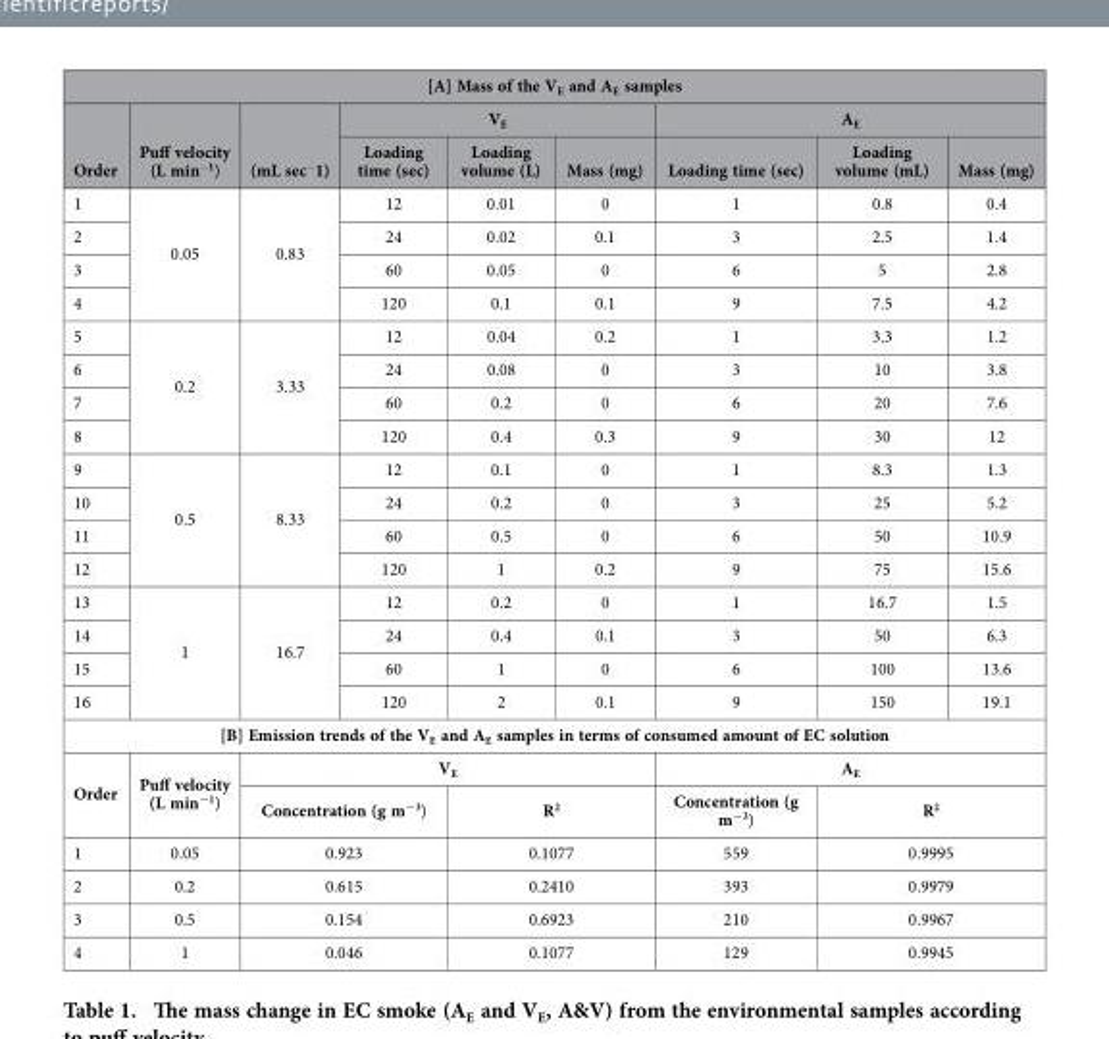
<table><thead><tr><td colspan="9">[A] Mass of the V<sub>E</sub> and A<sub>E</sub> samples</td></tr><tr><td rowspan="2">Order</td><td rowspan="2">Puff velocity (L min<sup>−1</sup>)</td><td rowspan="2">(mL sec<sup>−</sup>1)</td><td colspan="3">V<sub>E</sub></td><td colspan="3">A<sub>E</sub></td></tr><tr><td>Loading time (sec)</td><td>Loading volume (L)</td><td>Mass (mg)</td><td>Loading time (sec)</td><td>Loading volume (mL)</td><td>Mass (mg)</td></tr></thead><tbody><tr><td>1</td><td rowspan="4">0.05</td><td rowspan="4">0.83</td><td>12</td><td>0.01</td><td>0</td><td>1</td><td>0.8</td><td>0.4</td></tr><tr><td>2</td><td>24</td><td>0.02</td><td>0.1</td><td>3</td><td>2.5</td><td>1.4</td></tr><tr><td>3</td><td>60</td><td>0.05</td><td>0</td><td>6</td><td>5</td><td>2.8</td></tr><tr><td>4</td><td>120</td><td>0.1</td><td>0.1</td><td>9</td><td>7.5</td><td>4.2</td></tr><tr><td>5</td><td rowspan="4">0.2</td><td rowspan="4">3.33</td><td>12</td><td>0.04</td><td>0.2</td><td>1</td><td>3.3</td><td>1.2</td></tr><tr><td>6</td><td>24</td><td>0.08</td><td>0</td><td>3</td><td>10</td><td>3.8</td></tr><tr><td>7</td><td>60</td><td>0.2</td><td>0</td><td>6</td><td>20</td><td>7.6</td></tr><tr><td>8</td><td>120</td><td>0.4</td><td>0.3</td><td>9</td><td>30</td><td>12</td></tr><tr><td>9</td><td rowspan="4">0.5</td><td rowspan="4">8.33</td><td>12</td><td>0.1</td><td>0</td><td>1</td><td>8.3</td><td>1.3</td></tr><tr><td>10</td><td>24</td><td>0.2</td><td>0</td><td>3</td><td>25</td><td>5.2</td></tr><tr><td>11</td><td>60</td><td>0.5</td><td>0</td><td>6</td><td>50</td><td>10.9</td></tr><tr><td>12</td><td>120</td><td>1</td><td>0.2</td><td>9</td><td>75</td><td>15.6</td></tr><tr><td>13</td><td rowspan="4">1</td><td rowspan="4">16.7</td><td>12</td><td>0.2</td><td>0</td><td>1</td><td>16.7</td><td>1.5</td></tr><tr><td>14</td><td>24</td><td>0.4</td><td>0.1</td><td>3</td><td>50</td><td>6.3</td></tr><tr><td>15</td><td>60</td><td>1</td><td>0</td><td>6</td><td>100</td><td>13.6</td></tr><tr><td>16</td><td>120</td><td>2</td><td>0.1</td><td>9</td><td>150</td><td>19.1</td></tr><tr><td colspan="9">[B] Emission trends of the V<sub>E</sub> and A<sub>E</sub> samples in terms of consumed amount of EC solution</td></tr><tr><td rowspan="2">Order</td><td rowspan="2">Puff velocity (L min<sup>−1</sup>)</td><td colspan="4">V<sub>E</sub></td><td colspan="3">A<sub>E</sub></td></tr><tr><td colspan="2">Concentration (g m<sup>−3</sup>)</td><td colspan="2">R<sup>2</sup></td><td>Concentration (g m<sup>−3</sup>)</td><td colspan="2">R<sup>2</sup></td></tr><tr><td>1</td><td>0.05</td><td colspan="2">0.923</td><td colspan="2">0.1077</td><td>559</td><td colspan="2">0.9995</td></tr><tr><td>2</td><td>0.2</td><td colspan="2">0.615</td><td colspan="2">0.2410</td><td>393</td><td colspan="2">0.9979</td></tr><tr><td>3</td><td>0.5</td><td colspan="2">0.154</td><td colspan="2">0.6923</td><td>210</td><td colspan="2">0.9967</td></tr><tr><td>4</td><td>1</td><td colspan="2">0.046</td><td colspan="2">0.1077</td><td>129</td><td colspan="2">0.9945</td></tr></tbody></table>